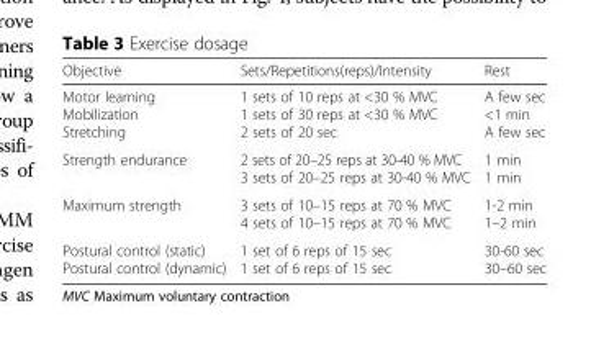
<table><thead><tr><td>Objective</td><td>Sets/Repetitions(reps)/Intensity</td><td>Rest</td></tr></thead><tbody><tr><td>Motor learning Mobilization Stretching</td><td>1 sets of 10 reps at &lt;30 % MVC 1 sets of 30 reps at &lt;30 % MVC 2 sets of 20 sec</td><td>A few sec &lt;1 min A few sec</td></tr><tr><td>Strength endurance</td><td>2 sets of 20–25 reps at 30-40 % MVC 3 sets of 20–25 reps at 30-40 % MVC</td><td>1 min 1 min</td></tr><tr><td>Maximum strength</td><td>3 sets of 10–15 reps at 70 % MVC 4 sets of 10–15 reps at 70 % MVC</td><td>1-2 min 1–2 min</td></tr><tr><td>Postural control (static) Postural control (dynamic)</td><td>1 set of 6 reps of 15 sec 1 set of 6 reps of 15 sec</td><td>30-60 sec 30–60 sec</td></tr></tbody></table>